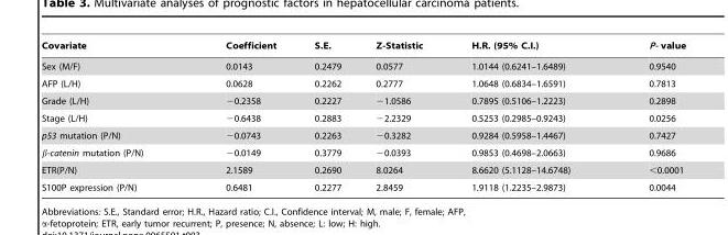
<table><thead><tr><td>Covariate</td><td>Coefficient</td><td>S.E.</td><td>Z-Statistic</td><td>H.R. (95% C.I.)</td><td>P- value</td></tr></thead><tbody><tr><td>Sex (M/F)</td><td>0.0143</td><td>0.2479</td><td>0.0577</td><td>1.0144 (0.6241–1.6489)</td><td>0.9540</td></tr><tr><td>AFP (L/H)</td><td>0.0628</td><td>0.2262</td><td>0.2777</td><td>1.0648 (0.6834–1.6591)</td><td>0.7813</td></tr><tr><td>Grade (L/H)</td><td>−0.2358</td><td>0.2227</td><td>−1.0586</td><td>0.7895 (0.5106–1.2223)</td><td>0.2898</td></tr><tr><td>Stage (L/H)</td><td>−0.6438</td><td>0.2883</td><td>−2.2329</td><td>0.5253 (0.2985–0.9243)</td><td>0.0256</td></tr><tr><td>p53 mutation (P/N)</td><td>−0.0743</td><td>0.2263</td><td>−0.3282</td><td>0.9284 (0.5958–1.4467)</td><td>0.7427</td></tr><tr><td>β-catenin mutation (P/N)</td><td>−0.0149</td><td>0.3779</td><td>−0.0393</td><td>0.9853 (0.4698–2.0663)</td><td>0.9686</td></tr><tr><td>ETR(P/N)</td><td>2.1589</td><td>0.2690</td><td>8.0264</td><td>8.6620 (5.1128–14.6748)</td><td>&lt;0.0001</td></tr><tr><td>S100P expression (P/N)</td><td>0.6481</td><td>0.2277</td><td>2.8459</td><td>1.9118 (1.2235–2.9873)</td><td>0.0044</td></tr></tbody></table>